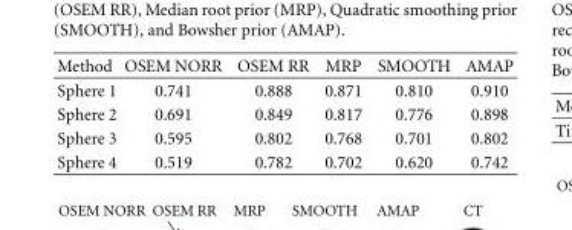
<table><thead><tr><td>Method</td><td>OSEM NORR</td><td>OSEM RR</td><td>MRP</td><td>SMOOTH</td><td>AMAP</td></tr></thead><tbody><tr><td>Sphere 1</td><td>0.741</td><td>0.888</td><td>0.871</td><td>0.810</td><td>0.910</td></tr><tr><td>Sphere 2</td><td>0.691</td><td>0.849</td><td>0.817</td><td>0.776</td><td>0.898</td></tr><tr><td>Sphere 3</td><td>0.595</td><td>0.802</td><td>0.768</td><td>0.701</td><td>0.802</td></tr><tr><td>Sphere 4</td><td>0.519</td><td>0.782</td><td>0.702</td><td>0.620</td><td>0.742</td></tr></tbody></table>